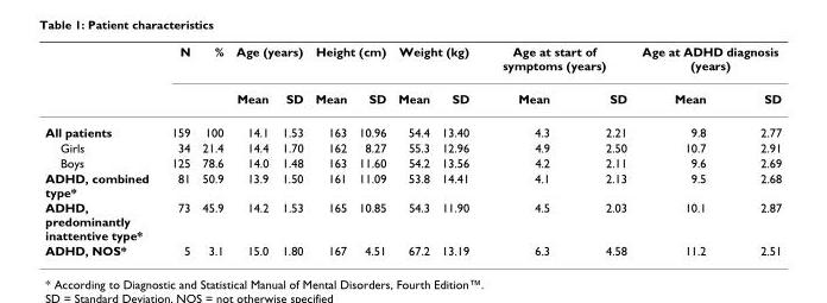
<table><thead><tr><td rowspan="2"></td><td rowspan="2">N</td><td rowspan="2">%</td><td colspan="2">Age (years)</td><td colspan="2">Height (cm)</td><td colspan="2">Weight (kg)</td><td colspan="2">Age at start of symptoms (years)</td><td colspan="2">Age at ADHD diagnosis (years)</td></tr><tr><td>Mean</td><td>SD</td><td>Mean</td><td>SD</td><td>Mean</td><td>SD</td><td>Mean</td><td>SD</td><td>Mean</td><td>SD</td></tr></thead><tbody><tr><td>All patients</td><td>159</td><td>100</td><td>14.1</td><td>1.53</td><td>163</td><td>10.96</td><td>54.4</td><td>13.40</td><td>4.3</td><td>2.21</td><td>9.8</td><td>2.77</td></tr><tr><td>Girls</td><td>34</td><td>21.4</td><td>14.4</td><td>1.70</td><td>162</td><td>8.27</td><td>55.3</td><td>12.96</td><td>4.9</td><td>2.50</td><td>10.7</td><td>2.91</td></tr><tr><td>Boys</td><td>125</td><td>78.6</td><td>14.0</td><td>1.48</td><td>163</td><td>11.60</td><td>54.2</td><td>13.56</td><td>4.2</td><td>2.11</td><td>9.6</td><td>2.69</td></tr><tr><td>ADHD, combined type*</td><td>81</td><td>50.9</td><td>13.9</td><td>1.50</td><td>161</td><td>11.09</td><td>53.8</td><td>14.41</td><td>4.1</td><td>2.13</td><td>9.5</td><td>2.68</td></tr><tr><td>ADHD, predominantly inattentive type*</td><td>73</td><td>45.9</td><td>14.2</td><td>1.53</td><td>165</td><td>10.85</td><td>54.3</td><td>11.90</td><td>4.5</td><td>2.03</td><td>10.1</td><td>2.87</td></tr><tr><td>ADHD, NOS*</td><td>5</td><td>3.1</td><td>15.0</td><td>1.80</td><td>167</td><td>4.51</td><td>67.2</td><td>13.19</td><td>6.3</td><td>4.58</td><td>11.2</td><td>2.51</td></tr></tbody></table>